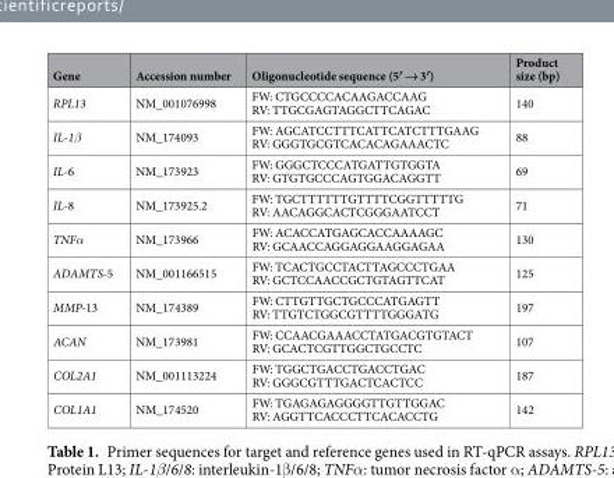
<table><thead><tr><td>Gene</td><td>Accession number</td><td>Oligonucleotide sequence (5′ → 3′)</td><td>Product size (bp)</td></tr></thead><tbody><tr><td>RPL13</td><td>NM_001076998</td><td>FW: CTGCCCCACAAGACCAAG RV: TTGCGAGTAGGCTTCAGAC</td><td>140</td></tr><tr><td>IL-1β</td><td>NM_174093</td><td>FW: AGCATCCTTTCATTCATCTTTGAAG RV: GGGTGCGTCACACAGAAACTC</td><td>88</td></tr><tr><td>IL-6</td><td>NM_173923</td><td>FW: GGGCTCCCATGATTGTGGTA RV: GTGTGCCCAGTGGACAGGTT</td><td>69</td></tr><tr><td>IL-8</td><td>NM_173925.2</td><td>FW: TGCTTTTTTGTTTTCGGTTTTTG RV: AACAGGCACTCGGGAATCCT</td><td>71</td></tr><tr><td>TNFα</td><td>NM_173966</td><td>FW: ACACCATGAGCACCAAAAGC RV: GCAACCAGGAGGAAGGAGAA</td><td>130</td></tr><tr><td>ADAMTS-5</td><td>NM_001166515</td><td>FW: TCACTGCCTACTTAGCCCTGAA RV: GCTCCAACCGCTGTAGTTCAT</td><td>125</td></tr><tr><td>MMP-13</td><td>NM_174389</td><td>FW: CTTGTTGCTGCCCATGAGTT RV: TTGTCTGGCGTTTTGGGATG</td><td>197</td></tr><tr><td>ACAN</td><td>NM_173981</td><td>FW: CCAACGAAACCTATGACGTGTACT RV: GCACTCGTTGGCTGCCTC</td><td>107</td></tr><tr><td>COL2A1</td><td>NM_001113224</td><td>FW: TGGCTGACCTGACCTGAC RV: GGGCGTTTGACTCACTCC</td><td>187</td></tr><tr><td>COL1A1</td><td>NM_174520</td><td>FW: TGAGAGAGGGGTTGTTGGAC RV: AGGTTCACCCTTCACACCTG</td><td>142</td></tr></tbody></table>